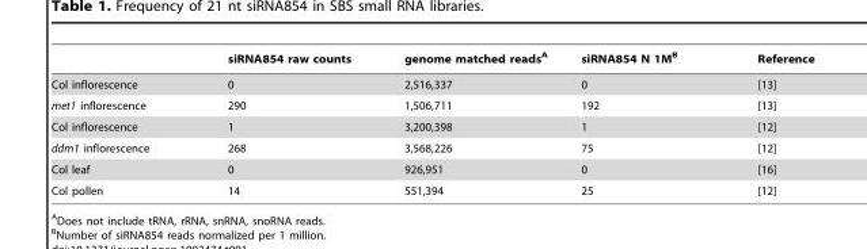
<table><thead><tr><td></td><td>siRNA854 raw counts</td><td>genome matched reads<sup>A</sup></td><td>siRNA854 N 1M<sup>B</sup></td><td>Reference</td></tr></thead><tbody><tr><td>Col inflorescence</td><td>0</td><td>2,516,337</td><td>0</td><td>[13]</td></tr><tr><td>met1 inflorescence</td><td>290</td><td>1,506,711</td><td>192</td><td>[13]</td></tr><tr><td>Col inflorescence</td><td>1</td><td>3,200,398</td><td>1</td><td>[12]</td></tr><tr><td>ddm1 inflorescence</td><td>268</td><td>3,568,226</td><td>75</td><td>[12]</td></tr><tr><td>Col leaf</td><td>0</td><td>926,951</td><td>0</td><td>[16]</td></tr><tr><td>Col pollen</td><td>14</td><td>551,394</td><td>25</td><td>[12]</td></tr></tbody></table>